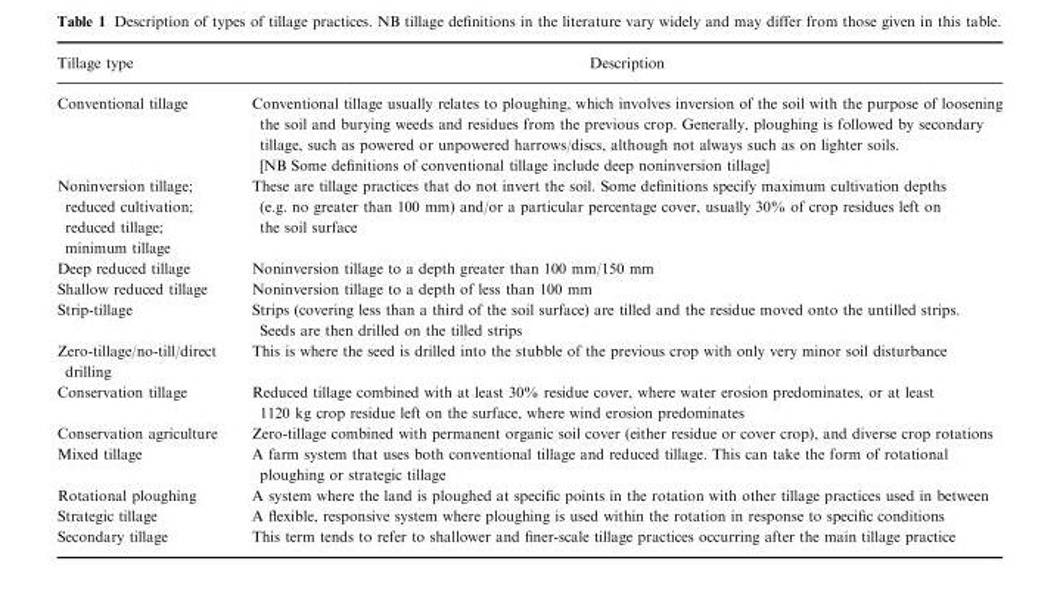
<table><thead><tr><td>Tillage type</td><td>Description</td></tr></thead><tbody><tr><td>Conventional tillage</td><td>Conventional tillage usually relates to ploughing, which involves inversion of the soil with the purpose of loosening the soil and burying weeds and residues from the previous crop. Generally, ploughing is followed by secondary tillage, such as powered or unpowered harrows/discs, although not always such as on lighter soils. [NB Some definitions of conventional tillage include deep noninversion tillage]</td></tr><tr><td>Noninversion tillage; reduced cultivation; reduced tillage; minimum tillage</td><td>These are tillage practices that do not invert the soil. Some definitions specify maximum cultivation depths (e.g. no greater than 100 mm) and/or a particular percentage cover, usually 30% of crop residues left on the soil surface</td></tr><tr><td>Deep reduced tillage</td><td>Noninversion tillage to a depth greater than 100 mm/150 mm</td></tr><tr><td>Shallow reduced tillage</td><td>Noninversion tillage to a depth of less than 100 mm</td></tr><tr><td>Strip-tillage</td><td>Strips (covering less than a third of the soil surface) are tilled and the residue moved onto the untilled strips. Seeds are then drilled on the tilled strips</td></tr><tr><td>Zero-tillage/no-till/direct drilling</td><td>This is where the seed is drilled into the stubble of the previous crop with only very minor soil disturbance</td></tr><tr><td>Conservation tillage</td><td>Reduced tillage combined with at least 30% residue cover, where water erosion predominates, or at least 1120 kg crop residue left on the surface, where wind erosion predominates</td></tr><tr><td>Conservation agriculture</td><td>Zero-tillage combined with permanent organic soil cover (either residue or cover crop), and diverse crop rotations</td></tr><tr><td>Mixed tillage</td><td>A farm system that uses both conventional tillage and reduced tillage. This can take the form of rotational ploughing or strategic tillage</td></tr><tr><td>Rotational ploughing</td><td>A system where the land is ploughed at specific points in the rotation with other tillage practices used in between</td></tr><tr><td>Strategic tillage</td><td>A flexible, responsive system where ploughing is used within the rotation in response to specific conditions</td></tr><tr><td>Secondary tillage</td><td>This term tends to refer to shallower and finer-scale tillage practices occurring after the main tillage practice</td></tr></tbody></table>